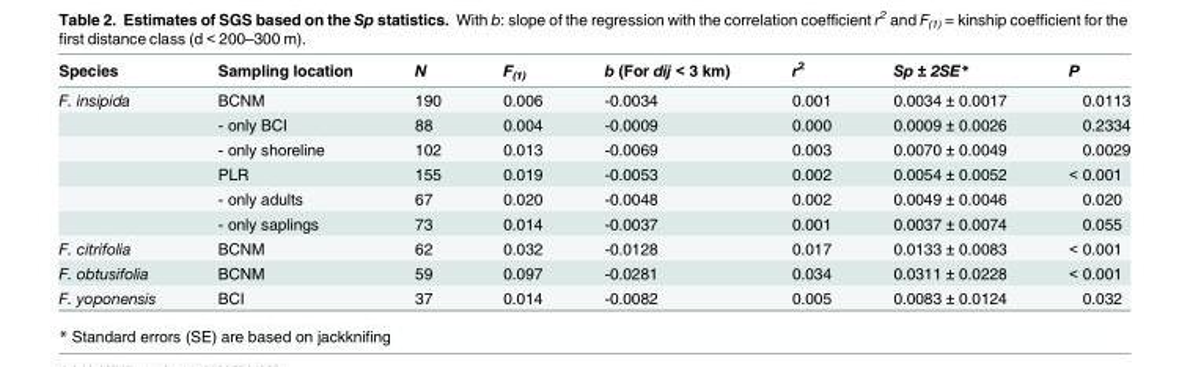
<table><thead><tr><td>Species</td><td>Sampling location</td><td>N</td><td>F<sub>(1)</sub></td><td>b (For dij &lt; 3 km)</td><td>r<sup>2</sup></td><td>Sp ± 2SE*</td><td>P</td></tr></thead><tbody><tr><td rowspan="6">F. insipida</td><td>BCNM</td><td>190</td><td>0.006</td><td>-0.0034</td><td>0.001</td><td>0.0034 ± 0.0017</td><td>0.0113</td></tr><tr><td>- only BCI</td><td>88</td><td>0.004</td><td>-0.0009</td><td>0.000</td><td>0.0009 ± 0.0026</td><td>0.2334</td></tr><tr><td>- only shoreline</td><td>102</td><td>0.013</td><td>-0.0069</td><td>0.003</td><td>0.0070 ± 0.0049</td><td>0.0029</td></tr><tr><td>PLR</td><td>155</td><td>0.019</td><td>-0.0053</td><td>0.002</td><td>0.0054 ± 0.0052</td><td>&lt; 0.001</td></tr><tr><td>- only adults</td><td>67</td><td>0.020</td><td>-0.0048</td><td>0.002</td><td>0.0049 ± 0.0046</td><td>0.020</td></tr><tr><td>- only saplings</td><td>73</td><td>0.014</td><td>-0.0037</td><td>0.001</td><td>0.0037 ± 0.0074</td><td>0.055</td></tr><tr><td>F. citrifolia</td><td>BCNM</td><td>62</td><td>0.032</td><td>-0.0128</td><td>0.017</td><td>0.0133 ± 0.0083</td><td>&lt; 0.001</td></tr><tr><td>F. obtusifolia</td><td>BCNM</td><td>59</td><td>0.097</td><td>-0.0281</td><td>0.034</td><td>0.0311 ± 0.0228</td><td>&lt; 0.001</td></tr><tr><td>F. yoponensis</td><td>BCI</td><td>37</td><td>0.014</td><td>-0.0082</td><td>0.005</td><td>0.0083 ± 0.0124</td><td>0.032</td></tr></tbody></table>